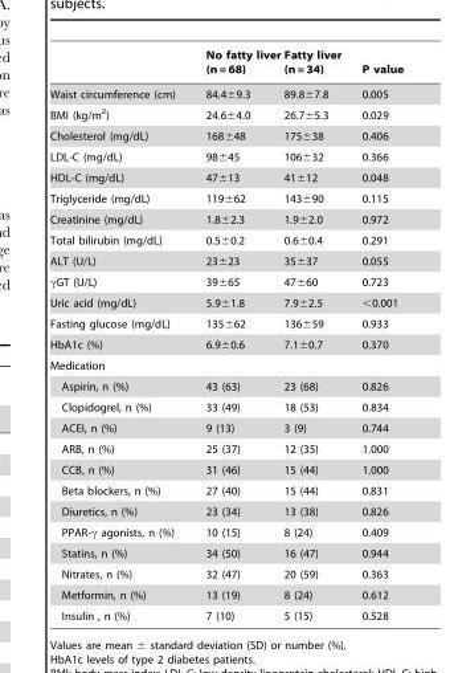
<table><thead><tr><td></td><td>No fatty liver (n = 68)</td><td>Fatty liver (n = 34)</td><td>P value</td></tr></thead><tbody><tr><td>Waist circumference (cm)</td><td>84.4±9.3</td><td>89.8±7.8</td><td>0.005</td></tr><tr><td>BMI (kg/m<sup>2</sup>)</td><td>24.6±4.0</td><td>26.7±5.3</td><td>0.029</td></tr><tr><td>Cholesterol (mg/dL)</td><td>168±48</td><td>175±38</td><td>0.406</td></tr><tr><td>LDL-C (mg/dL)</td><td>98±45</td><td>106±32</td><td>0.366</td></tr><tr><td>HDL-C (mg/dL)</td><td>47±13</td><td>41±12</td><td>0.048</td></tr><tr><td>Triglyceride (mg/dL)</td><td>119±62</td><td>143±90</td><td>0.115</td></tr><tr><td>Creatinine (mg/dL)</td><td>1.8±2.3</td><td>1.9±2.0</td><td>0.972</td></tr><tr><td>Total bilirubin (mg/dL)</td><td>0.5±0.2</td><td>0.6±0.4</td><td>0.291</td></tr><tr><td>ALT (U/L)</td><td>23±23</td><td>35±37</td><td>0.055</td></tr><tr><td>γGT (U/L)</td><td>39±65</td><td>47±60</td><td>0.723</td></tr><tr><td>Uric acid (mg/dL)</td><td>5.9±1.8</td><td>7.9±2.5</td><td>&lt;0.001</td></tr><tr><td>Fasting glucose (mg/dL)</td><td>135±62</td><td>136±59</td><td>0.933</td></tr><tr><td>HbA1c (%)</td><td>6.9±0.6</td><td>7.1±0.7</td><td>0.370</td></tr><tr><td colspan="4">Medication</td></tr><tr><td>Aspirin, n (%)</td><td>43 (63)</td><td>23 (68)</td><td>0.826</td></tr><tr><td>Clopidogrel, n (%)</td><td>33 (49)</td><td>18 (53)</td><td>0.834</td></tr><tr><td>ACEI, n (%)</td><td>9 (13)</td><td>3 (9)</td><td>0.744</td></tr><tr><td>ARB, n (%)</td><td>25 (37)</td><td>12 (35)</td><td>1.000</td></tr><tr><td>CCB, n (%)</td><td>31 (46)</td><td>15 (44)</td><td>1.000</td></tr><tr><td>Beta blockers, n (%)</td><td>27 (40)</td><td>15 (44)</td><td>0.831</td></tr><tr><td>Diuretics, n (%)</td><td>23 (34)</td><td>13 (38)</td><td>0.826</td></tr><tr><td>PPAR-γ agonists, n (%)</td><td>10 (15)</td><td>8 (24)</td><td>0.409</td></tr><tr><td>Statins, n (%)</td><td>34 (50)</td><td>16 (47)</td><td>0.944</td></tr><tr><td>Nitrates, n (%)</td><td>32 (47)</td><td>20 (59)</td><td>0.363</td></tr><tr><td>Metformin, n (%)</td><td>13 (19)</td><td>8 (24)</td><td>0.612</td></tr><tr><td>Insulin , n (%)</td><td>7 (10)</td><td>5 (15)</td><td>0.528</td></tr></tbody></table>